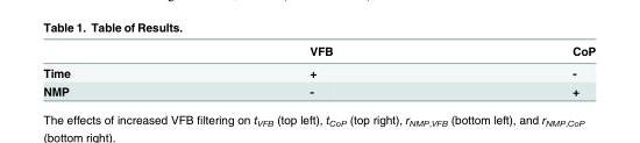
<table><thead><tr><td></td><td>VFB</td><td>CoP</td></tr></thead><tbody><tr><td>Time</td><td>+</td><td>-</td></tr><tr><td>NMP</td><td>-</td><td>+</td></tr></tbody></table>